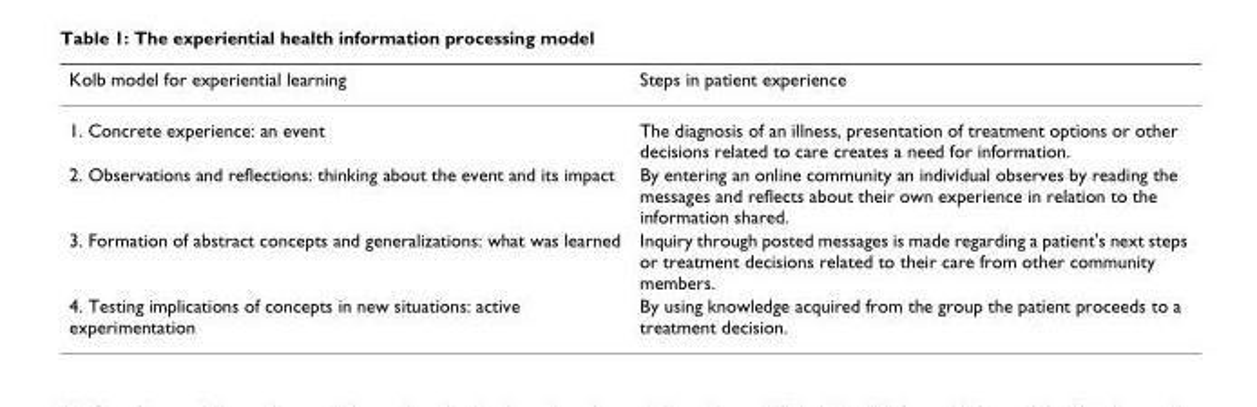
<table><thead><tr><td>Kolb model for experiential learning</td><td>Steps in patient experience</td></tr></thead><tbody><tr><td>1. Concrete experience: an event</td><td>The diagnosis of an illness, presentation of treatment options or other decisions related to care creates a need for information.</td></tr><tr><td>2. Observations and reflections: thinking about the event and its impact</td><td>By entering an online community an individual observes by reading the messages and reflects about their own experience in relation to the information shared.</td></tr><tr><td>3. Formation of abstract concepts and generalizations: what was learned</td><td>Inquiry through posted messages is made regarding a patient&#x27;s next steps or treatment decisions related to their care from other community members.</td></tr><tr><td>4. Testing implications of concepts in new situations: active experimentation</td><td>By using knowledge acquired from the group the patient proceeds to a treatment decision.</td></tr></tbody></table>